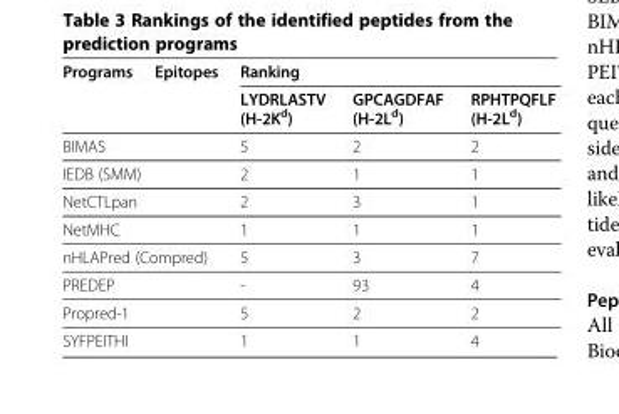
<table><thead><tr><td rowspan="2">Programs</td><td rowspan="2">Epitopes</td><td colspan="3">Ranking</td></tr><tr><td>LYDRLASTV (H-2K<sup>d</sup>)</td><td>GPCAGDFAF (H-2L<sup>d</sup>)</td><td>RPHTPQFLF (H-2L<sup>d</sup>)</td></tr></thead><tbody><tr><td colspan="2">BIMAS</td><td>5</td><td>2</td><td>2</td></tr><tr><td colspan="2">IEDB (SMM)</td><td>2</td><td>1</td><td>1</td></tr><tr><td colspan="2">NetCTLpan</td><td>2</td><td>3</td><td>1</td></tr><tr><td colspan="2">NetMHC</td><td>1</td><td>1</td><td>1</td></tr><tr><td colspan="2">nHLAPred (Compred)</td><td>5</td><td>3</td><td>7</td></tr><tr><td colspan="2">PREDEP</td><td>-</td><td>93</td><td>4</td></tr><tr><td colspan="2">Propred-1</td><td>5</td><td>2</td><td>2</td></tr><tr><td colspan="2">SYFPEITHI</td><td>1</td><td>1</td><td>4</td></tr></tbody></table>